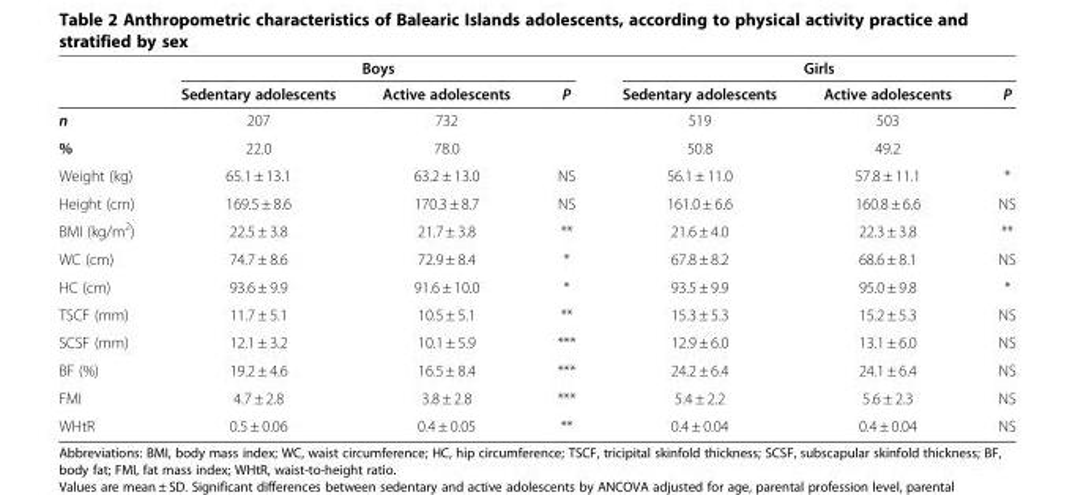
<table><thead><tr><td rowspan="2"></td><td colspan="3">Boys</td><td colspan="3">Girls</td></tr><tr><td>Sedentary adolescents</td><td>Active adolescents</td><td>P</td><td>Sedentary adolescents</td><td>Active adolescents</td><td>P</td></tr></thead><tbody><tr><td>n</td><td>207</td><td>732</td><td></td><td>519</td><td>503</td><td></td></tr><tr><td>%</td><td>22.0</td><td>78.0</td><td></td><td>50.8</td><td>49.2</td><td></td></tr><tr><td>Weight (kg)</td><td>65.1 ± 13.1</td><td>63.2 ± 13.0</td><td>NS</td><td>56.1 ± 11.0</td><td>57.8 ± 11.1</td><td>*</td></tr><tr><td>Height (cm)</td><td>169.5 ± 8.6</td><td>170.3 ± 8.7</td><td>NS</td><td>161.0 ± 6.6</td><td>160.8 ± 6.6</td><td>NS</td></tr><tr><td>BMI (kg/m<sup>2</sup>)</td><td>22.5 ± 3.8</td><td>21.7 ± 3.8</td><td>**</td><td>21.6 ± 4.0</td><td>22.3 ± 3.8</td><td>**</td></tr><tr><td>WC (cm)</td><td>74.7 ± 8.6</td><td>72.9 ± 8.4</td><td>*</td><td>67.8 ± 8.2</td><td>68.6 ± 8.1</td><td>NS</td></tr><tr><td>HC (cm)</td><td>93.6 ± 9.9</td><td>91.6 ± 10.0</td><td>*</td><td>93.5 ± 9.9</td><td>95.0 ± 9.8</td><td>*</td></tr><tr><td>TSCF (mm)</td><td>11.7 ± 5.1</td><td>10.5 ± 5.1</td><td>**</td><td>15.3 ± 5.3</td><td>15.2 ± 5.3</td><td>NS</td></tr><tr><td>SCSF (mm)</td><td>12.1 ± 3.2</td><td>10.1 ± 5.9</td><td>***</td><td>12.9 ± 6.0</td><td>13.1 ± 6.0</td><td>NS</td></tr><tr><td>BF (%)</td><td>19.2 ± 4.6</td><td>16.5 ± 8.4</td><td>***</td><td>24.2 ± 6.4</td><td>24.1 ± 6.4</td><td>NS</td></tr><tr><td>FMI</td><td>4.7 ± 2.8</td><td>3.8 ± 2.8</td><td>***</td><td>5.4 ± 2.2</td><td>5.6 ± 2.3</td><td>NS</td></tr><tr><td>WHtR</td><td>0.5 ± 0.06</td><td>0.4 ± 0.05</td><td>**</td><td>0.4 ± 0.04</td><td>0.4 ± 0.04</td><td>NS</td></tr></tbody></table>